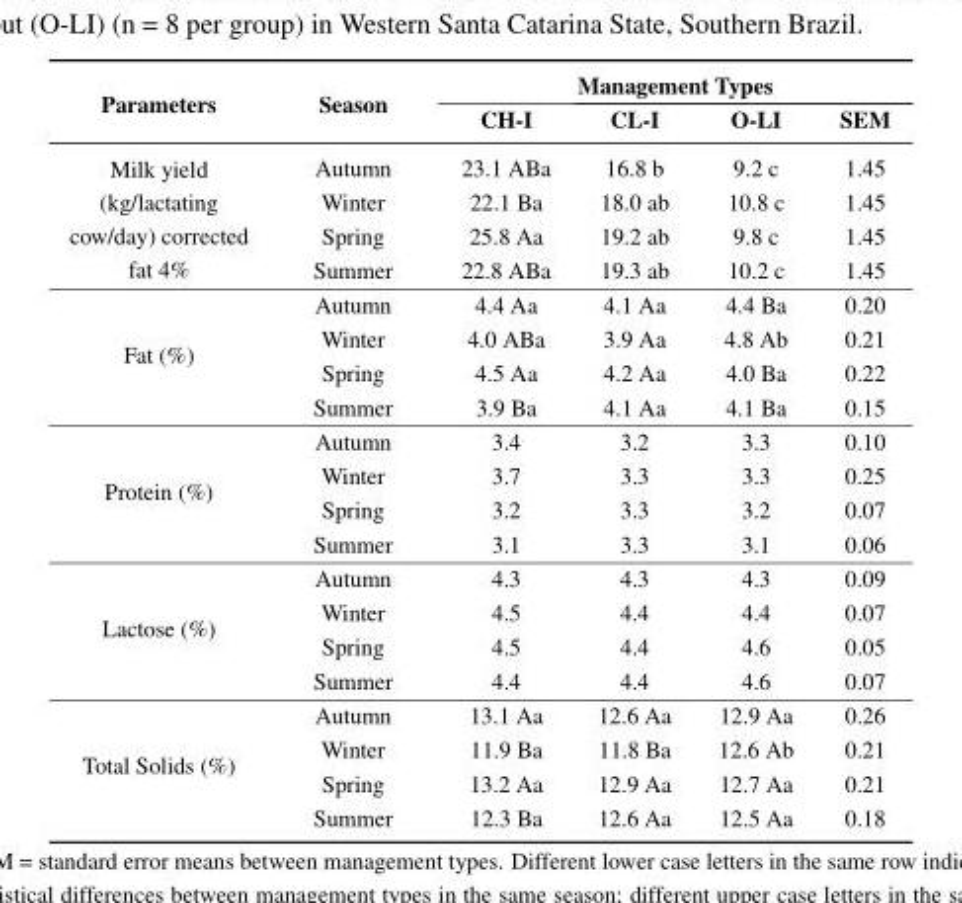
<table><thead><tr><td rowspan="2">Parameters</td><td rowspan="2">Season</td><td colspan="4">Management Types</td></tr><tr><td>CH-I</td><td>CL-I</td><td>O-LI</td><td>SEM</td></tr></thead><tbody><tr><td rowspan="4">Milk yield (kg/lactating cow/day) corrected fat 4%</td><td>Autumn</td><td>23.1 ABa</td><td>16.8 b</td><td>9.2 c</td><td>1.45</td></tr><tr><td>Winter</td><td>22.1 Ba</td><td>18.0 ab</td><td>10.8 c</td><td>1.45</td></tr><tr><td>Spring</td><td>25.8 Aa</td><td>19.2 ab</td><td>9.8 c</td><td>1.45</td></tr><tr><td>Summer</td><td>22.8 ABa</td><td>19.3 ab</td><td>10.2 c</td><td>1.45</td></tr><tr><td rowspan="4">Fat (%)</td><td>Autumn</td><td>4.4 Aa</td><td>4.1 Aa</td><td>4.4 Ba</td><td>0.20</td></tr><tr><td>Winter</td><td>4.0 ABa</td><td>3.9 Aa</td><td>4.8 Ab</td><td>0.21</td></tr><tr><td>Spring</td><td>4.5 Aa</td><td>4.2 Aa</td><td>4.0 Ba</td><td>0.22</td></tr><tr><td>Summer</td><td>3.9 Ba</td><td>4.1 Aa</td><td>4.1 Ba</td><td>0.15</td></tr><tr><td rowspan="4">Protein (%)</td><td>Autumn</td><td>3.4</td><td>3.2</td><td>3.3</td><td>0.10</td></tr><tr><td>Winter</td><td>3.7</td><td>3.3</td><td>3.3</td><td>0.25</td></tr><tr><td>Spring</td><td>3.2</td><td>3.3</td><td>3.2</td><td>0.07</td></tr><tr><td>Summer</td><td>3.1</td><td>3.3</td><td>3.1</td><td>0.06</td></tr><tr><td rowspan="4">Lactose (%)</td><td>Autumn</td><td>4.3</td><td>4.3</td><td>4.3</td><td>0.09</td></tr><tr><td>Winter</td><td>4.5</td><td>4.4</td><td>4.4</td><td>0.07</td></tr><tr><td>Spring</td><td>4.5</td><td>4.4</td><td>4.6</td><td>0.05</td></tr><tr><td>Summer</td><td>4.4</td><td>4.4</td><td>4.6</td><td>0.07</td></tr><tr><td rowspan="4">Total Solids (%)</td><td>Autumn</td><td>13.1 Aa</td><td>12.6 Aa</td><td>12.9 Aa</td><td>0.26</td></tr><tr><td>Winter</td><td>11.9 Ba</td><td>11.8 Ba</td><td>12.6 Ab</td><td>0.21</td></tr><tr><td>Spring</td><td>13.2 Aa</td><td>12.9 Aa</td><td>12.7 Aa</td><td>0.21</td></tr><tr><td>Summer</td><td>12.3 Ba</td><td>12.6 Aa</td><td>12.5 Aa</td><td>0.18</td></tr></tbody></table>